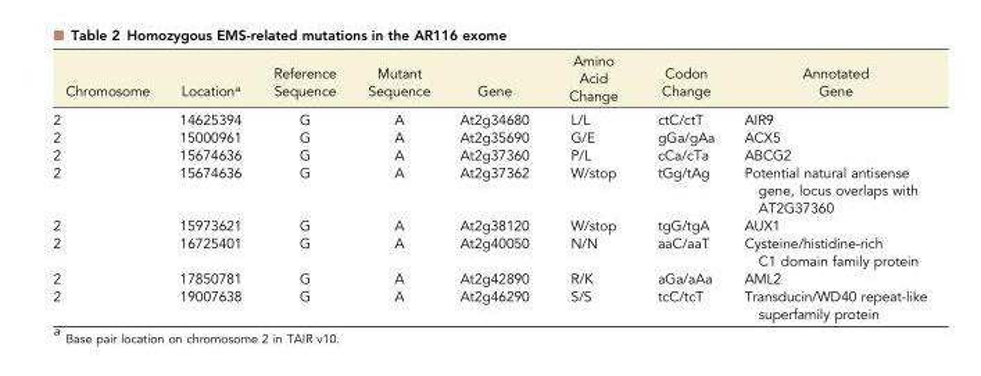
<table><thead><tr><td>Chromosome</td><td>Location<sup>a</sup></td><td>Reference Sequence</td><td>Mutant Sequence</td><td>Gene</td><td>Amino Acid Change</td><td>Codon Change</td><td>Annotated Gene</td></tr></thead><tbody><tr><td>2</td><td>14625394</td><td>G</td><td>A</td><td>At2g34680</td><td>L/L</td><td>ctC/ctT</td><td>AIR9</td></tr><tr><td>2</td><td>15000961</td><td>G</td><td>A</td><td>At2g35690</td><td>G/E</td><td>gGa/gAa</td><td>ACX5</td></tr><tr><td>2</td><td>15674636</td><td>G</td><td>A</td><td>At2g37360</td><td>P/L</td><td>cCa/cTa</td><td>ABCG2</td></tr><tr><td>2</td><td>15674636</td><td>G</td><td>A</td><td>At2g37362</td><td>W/stop</td><td>tGg/tAg</td><td>Potential natural antisense gene, locus overlaps with AT2G37360</td></tr><tr><td>2</td><td>15973621</td><td>G</td><td>A</td><td>At2g38120</td><td>W/stop</td><td>tgG/tgA</td><td>AUX1</td></tr><tr><td>2</td><td>16725401</td><td>G</td><td>A</td><td>At2g40050</td><td>N/N</td><td>aaC/aaT</td><td>Cysteine/histidine-rich C1 domain family protein</td></tr><tr><td>2</td><td>17850781</td><td>G</td><td>A</td><td>At2g42890</td><td>R/K</td><td>aGa/aAa</td><td>AML2</td></tr><tr><td>2</td><td>19007638</td><td>G</td><td>A</td><td>At2g46290</td><td>S/S</td><td>tcC/tcT</td><td>Transducin/WD40 repeat-like superfamily protein</td></tr></tbody></table>